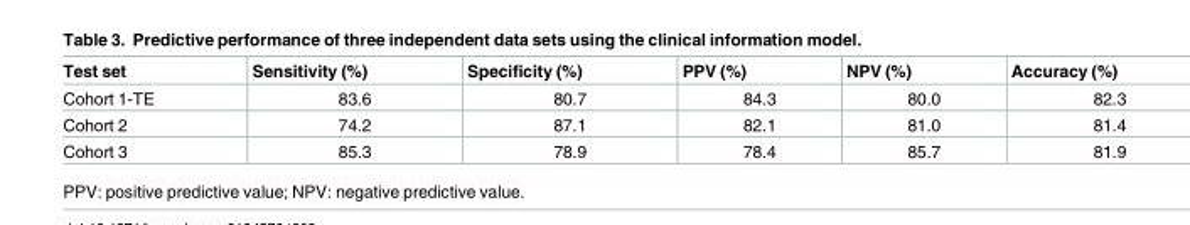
<table><thead><tr><td>Test set</td><td>Sensitivity (%)</td><td>Specificity (%)</td><td>PPV (%)</td><td>NPV (%)</td><td>Accuracy (%)</td></tr></thead><tbody><tr><td>Cohort 1-TE</td><td>83.6</td><td>80.7</td><td>84.3</td><td>80.0</td><td>82.3</td></tr><tr><td>Cohort 2</td><td>74.2</td><td>87.1</td><td>82.1</td><td>81.0</td><td>81.4</td></tr><tr><td>Cohort 3</td><td>85.3</td><td>78.9</td><td>78.4</td><td>85.7</td><td>81.9</td></tr></tbody></table>